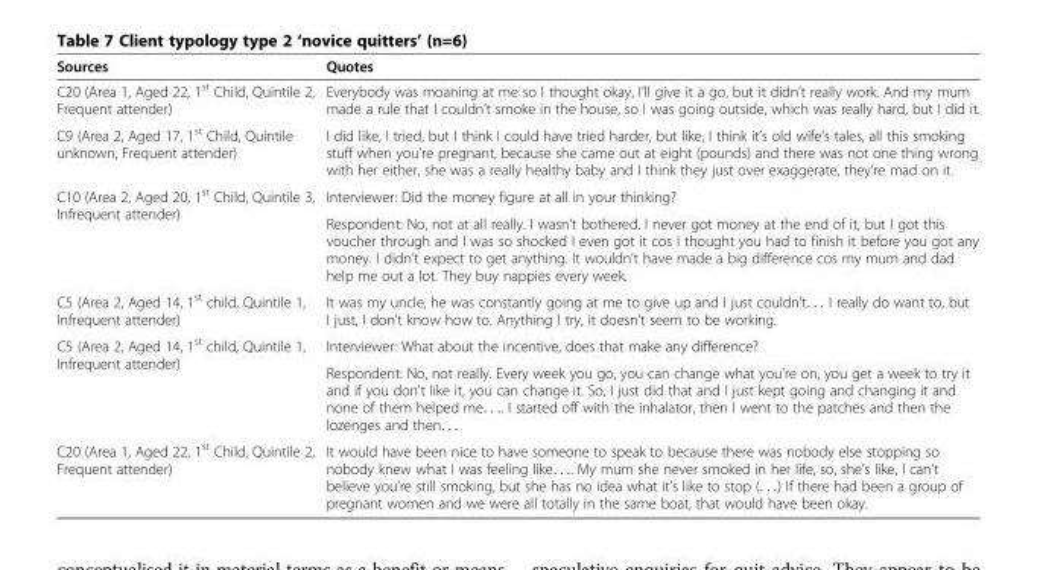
<table><thead><tr><td>Sources</td><td>Quotes</td></tr></thead><tbody><tr><td>C20 (Area 1, Aged 22, 1<sup>st</sup> Child, Quintile 2, Frequent attender)</td><td>Everybody was moaning at me so I thought okay, I’ll give it a go, but it didn’t really work. And my mum made a rule that I couldn’t smoke in the house, so I was going outside, which was really hard, but I did it.</td></tr><tr><td>C9 (Area 2, Aged 17, 1<sup>st</sup> Child, Quintile unknown, Frequent attender)</td><td>I did like, I tried, but I think I could have tried harder, but like, I think it’s old wife’s tales, all this smoking stuff when you’re pregnant, because she came out at eight (pounds) and there was not one thing wrong with her either, she was a really healthy baby and I think they just over exaggerate, they’re mad on it.</td></tr><tr><td rowspan="2">C10 (Area 2, Aged 20, 1<sup>st</sup> Child, Quintile 3, Infrequent attender)</td><td>Interviewer: Did the money figure at all in your thinking?</td></tr><tr><td>Respondent: No, not at all really. I wasn’t bothered. I never got money at the end of it, but I got this voucher through and I was so shocked I even got it cos I thought you had to finish it before you got any money. I didn’t expect to get anything. It wouldn’t have made a big difference cos my mum and dad help me out a lot. They buy nappies every week.</td></tr><tr><td>C5 (Area 2, Aged 14, 1<sup>st</sup> child, Quintile 1, Infrequent attender)</td><td>It was my uncle, he was constantly going at me to give up and I just couldn&#x27;t. . . I really do want to, but I just, I don&#x27;t know how to. Anything I try, it doesn&#x27;t seem to be working.</td></tr><tr><td rowspan="2">C5 (Area 2, Aged 14, 1<sup>st</sup> child, Quintile 1, Infrequent attender)</td><td>Interviewer: What about the incentive, does that make any difference?</td></tr><tr><td>Respondent: No, not really. Every week you go, you can change what you&#x27;re on, you get a week to try it and if you don&#x27;t like it, you can change it. So, I just did that and I just kept going and changing it and none of them helped me. . .. I started off with the inhalator, then I went to the patches and then the lozenges and then. . .</td></tr><tr><td>C20 (Area 1, Aged 22, 1<sup>st</sup> Child, Quintile 2, Frequent attender)</td><td>It would have been nice to have someone to speak to because there was nobody else stopping so nobody knew what I was feeling like. . .. My mum she never smoked in her life, so, she’s like, I can’t believe you’re still smoking, but she has no idea what it’s like to stop (. . .) If there had been a group of pregnant women and we were all totally in the same boat, that would have been okay.</td></tr></tbody></table>